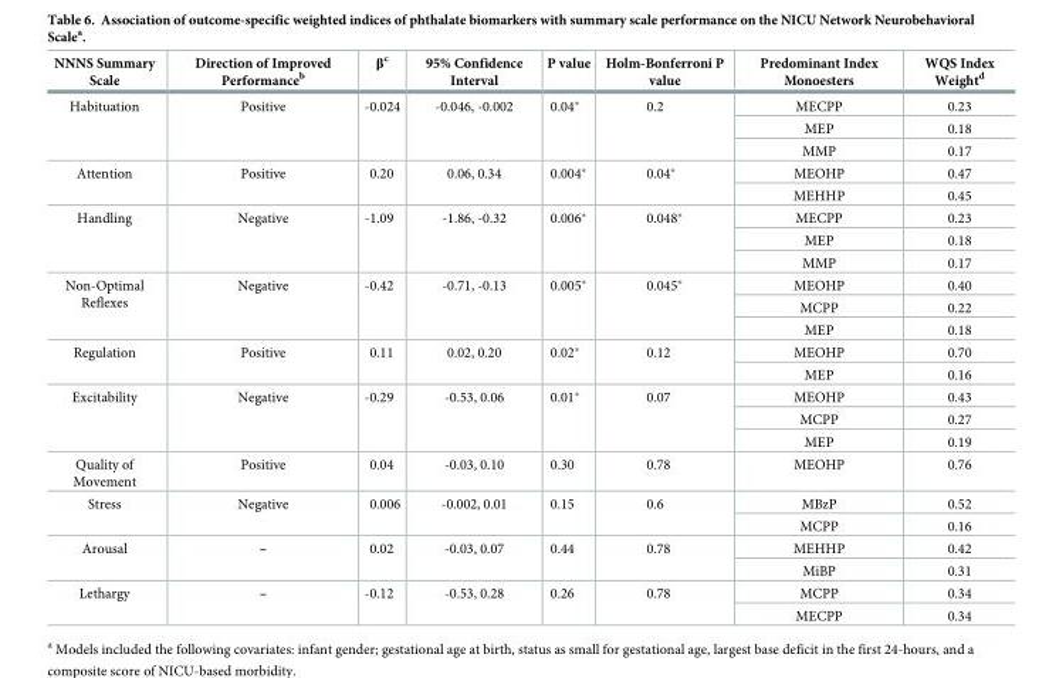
<table><thead><tr><td>NNNS Summary Scale</td><td>Direction of Improved Performance<sup>b</sup></td><td>β<sup>c</sup></td><td>95% Confidence Interval</td><td>P value</td><td>Holm-Bonferroni P value</td><td>Predominant Index Monoesters</td><td>WQS Index Weight<sup>d</sup></td></tr></thead><tbody><tr><td rowspan="3">Habituation</td><td rowspan="3">Positive</td><td rowspan="3">-0.024</td><td rowspan="3">-0.046, -0.002</td><td rowspan="3">0.04*</td><td rowspan="3">0.2</td><td>MECPP</td><td>0.23</td></tr><tr><td>MEP</td><td>0.18</td></tr><tr><td>MMP</td><td>0.17</td></tr><tr><td rowspan="2">Attention</td><td rowspan="2">Positive</td><td rowspan="2">0.20</td><td rowspan="2">0.06, 0.34</td><td rowspan="2">0.004*</td><td rowspan="2">0.04*</td><td>MEOHP</td><td>0.47</td></tr><tr><td>MEHHP</td><td>0.45</td></tr><tr><td rowspan="3">Handling</td><td rowspan="3">Negative</td><td rowspan="3">-1.09</td><td rowspan="3">-1.86, -0.32</td><td rowspan="3">0.006*</td><td rowspan="3">0.048*</td><td>MECPP</td><td>0.23</td></tr><tr><td>MEP</td><td>0.18</td></tr><tr><td>MMP</td><td>0.17</td></tr><tr><td rowspan="3">Non-Optimal Reflexes</td><td rowspan="3">Negative</td><td rowspan="3">-0.42</td><td rowspan="3">-0.71, -0.13</td><td rowspan="3">0.005*</td><td rowspan="3">0.045*</td><td>MEOHP</td><td>0.40</td></tr><tr><td>MCPP</td><td>0.22</td></tr><tr><td>MEP</td><td>0.18</td></tr><tr><td rowspan="2">Regulation</td><td rowspan="2">Positive</td><td rowspan="2">0.11</td><td rowspan="2">0.02, 0.20</td><td rowspan="2">0.02*</td><td rowspan="2">0.12</td><td>MEOHP</td><td>0.70</td></tr><tr><td>MEP</td><td>0.16</td></tr><tr><td rowspan="3">Excitability</td><td rowspan="3">Negative</td><td rowspan="3">-0.29</td><td rowspan="3">-0.53, 0.06</td><td rowspan="3">0.01*</td><td rowspan="3">0.07</td><td>MEOHP</td><td>0.43</td></tr><tr><td>MCPP</td><td>0.27</td></tr><tr><td>MEP</td><td>0.19</td></tr><tr><td>Quality of Movement</td><td>Positive</td><td>0.04</td><td>-0.03, 0.10</td><td>0.30</td><td>0.78</td><td>MEOHP</td><td>0.76</td></tr><tr><td rowspan="2">Stress</td><td rowspan="2">Negative</td><td rowspan="2">0.006</td><td rowspan="2">-0.002, 0.01</td><td rowspan="2">0.15</td><td rowspan="2">0.6</td><td>MBzP</td><td>0.52</td></tr><tr><td>MCPP</td><td>0.16</td></tr><tr><td rowspan="2">Arousal</td><td rowspan="2">–</td><td rowspan="2">0.02</td><td rowspan="2">-0.03, 0.07</td><td rowspan="2">0.44</td><td rowspan="2">0.78</td><td>MEHHP</td><td>0.42</td></tr><tr><td>MiBP</td><td>0.31</td></tr><tr><td rowspan="2">Lethargy</td><td rowspan="2">–</td><td rowspan="2">-0.12</td><td rowspan="2">-0.53, 0.28</td><td rowspan="2">0.26</td><td rowspan="2">0.78</td><td>MCPP</td><td>0.34</td></tr><tr><td>MECPP</td><td>0.34</td></tr></tbody></table>